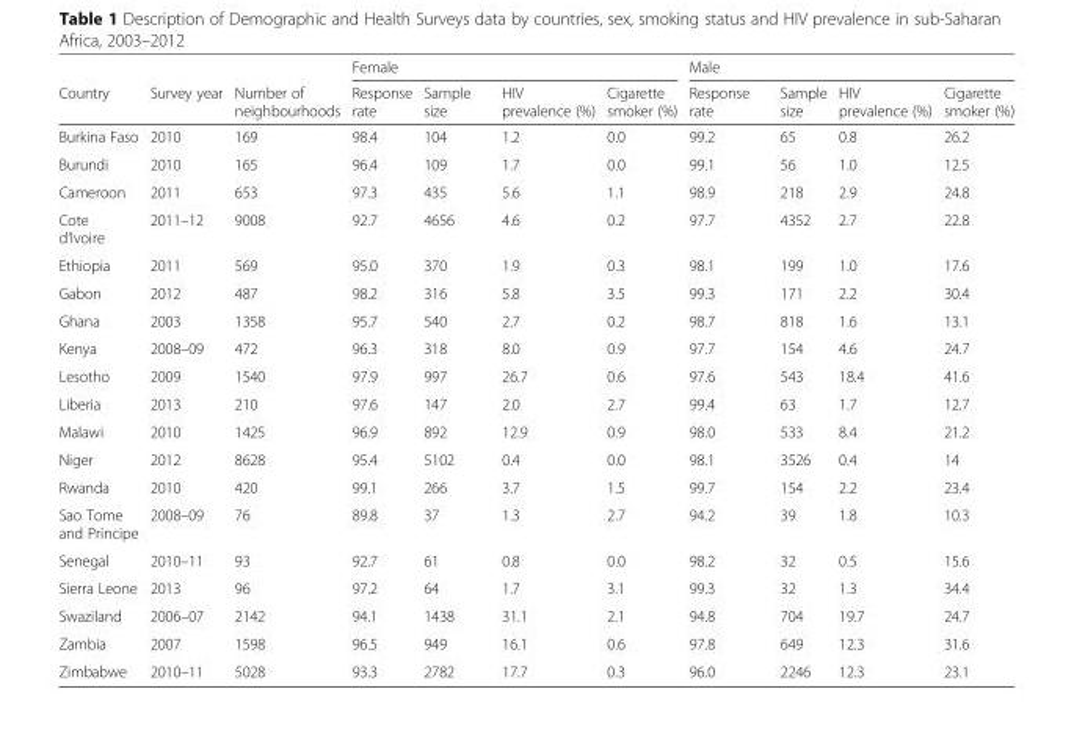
<table><thead><tr><td rowspan="2">Country</td><td rowspan="2">Survey year</td><td rowspan="2">Number of neighbourhoods</td><td colspan="4">Female</td><td colspan="4">Male</td></tr><tr><td>Response rate</td><td>Sample size</td><td>HIV prevalence (%)</td><td>Cigarette smoker (%)</td><td>Response rate</td><td>Sample size</td><td>HIV prevalence (%)</td><td>Cigarette smoker (%)</td></tr></thead><tbody><tr><td>Burkina Faso</td><td>2010</td><td>169</td><td>98.4</td><td>104</td><td>1.2</td><td>0.0</td><td>99.2</td><td>65</td><td>0.8</td><td>26.2</td></tr><tr><td>Burundi</td><td>2010</td><td>165</td><td>96.4</td><td>109</td><td>1.7</td><td>0.0</td><td>99.1</td><td>56</td><td>1.0</td><td>12.5</td></tr><tr><td>Cameroon</td><td>2011</td><td>653</td><td>97.3</td><td>435</td><td>5.6</td><td>1.1</td><td>98.9</td><td>218</td><td>2.9</td><td>24.8</td></tr><tr><td>Cote d’Ivoire</td><td>2011–12</td><td>9008</td><td>92.7</td><td>4656</td><td>4.6</td><td>0.2</td><td>97.7</td><td>4352</td><td>2.7</td><td>22.8</td></tr><tr><td>Ethiopia</td><td>2011</td><td>569</td><td>95.0</td><td>370</td><td>1.9</td><td>0.3</td><td>98.1</td><td>199</td><td>1.0</td><td>17.6</td></tr><tr><td>Gabon</td><td>2012</td><td>487</td><td>98.2</td><td>316</td><td>5.8</td><td>3.5</td><td>99.3</td><td>171</td><td>2.2</td><td>30.4</td></tr><tr><td>Ghana</td><td>2003</td><td>1358</td><td>95.7</td><td>540</td><td>2.7</td><td>0.2</td><td>98.7</td><td>818</td><td>1.6</td><td>13.1</td></tr><tr><td>Kenya</td><td>2008–09</td><td>472</td><td>96.3</td><td>318</td><td>8.0</td><td>0.9</td><td>97.7</td><td>154</td><td>4.6</td><td>24.7</td></tr><tr><td>Lesotho</td><td>2009</td><td>1540</td><td>97.9</td><td>997</td><td>26.7</td><td>0.6</td><td>97.6</td><td>543</td><td>18.4</td><td>41.6</td></tr><tr><td>Liberia</td><td>2013</td><td>210</td><td>97.6</td><td>147</td><td>2.0</td><td>2.7</td><td>99.4</td><td>63</td><td>1.7</td><td>12.7</td></tr><tr><td>Malawi</td><td>2010</td><td>1425</td><td>96.9</td><td>892</td><td>12.9</td><td>0.9</td><td>98.0</td><td>533</td><td>8.4</td><td>21.2</td></tr><tr><td>Niger</td><td>2012</td><td>8628</td><td>95.4</td><td>5102</td><td>0.4</td><td>0.0</td><td>98.1</td><td>3526</td><td>0.4</td><td>14</td></tr><tr><td>Rwanda</td><td>2010</td><td>420</td><td>99.1</td><td>266</td><td>3.7</td><td>1.5</td><td>99.7</td><td>154</td><td>2.2</td><td>23.4</td></tr><tr><td>Sao Tome and Principe</td><td>2008–09</td><td>76</td><td>89.8</td><td>37</td><td>1.3</td><td>2.7</td><td>94.2</td><td>39</td><td>1.8</td><td>10.3</td></tr><tr><td>Senegal</td><td>2010–11</td><td>93</td><td>92.7</td><td>61</td><td>0.8</td><td>0.0</td><td>98.2</td><td>32</td><td>0.5</td><td>15.6</td></tr><tr><td>Sierra Leone</td><td>2013</td><td>96</td><td>97.2</td><td>64</td><td>1.7</td><td>3.1</td><td>99.3</td><td>32</td><td>1.3</td><td>34.4</td></tr><tr><td>Swaziland</td><td>2006–07</td><td>2142</td><td>94.1</td><td>1438</td><td>31.1</td><td>2.1</td><td>94.8</td><td>704</td><td>19.7</td><td>24.7</td></tr><tr><td>Zambia</td><td>2007</td><td>1598</td><td>96.5</td><td>949</td><td>16.1</td><td>0.6</td><td>97.8</td><td>649</td><td>12.3</td><td>31.6</td></tr><tr><td>Zimbabwe</td><td>2010–11</td><td>5028</td><td>93.3</td><td>2782</td><td>17.7</td><td>0.3</td><td>96.0</td><td>2246</td><td>12.3</td><td>23.1</td></tr></tbody></table>